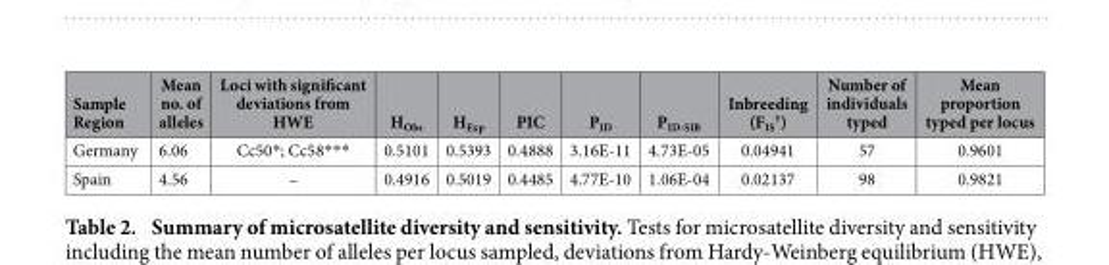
<table><thead><tr><td>Sample Region</td><td>Mean no. of alleles</td><td>Loci with significant deviations from HWE</td><td>H<sub>Obs</sub></td><td>H<sub>Exp</sub></td><td>PIC</td><td>P<sub>ID</sub></td><td>P<sub>ID-SIB</sub></td><td>Inbreeding (F<sub>IS</sub> †)</td><td>Number of individuals typed</td><td>Mean proportion typed per locus</td></tr></thead><tbody><tr><td>Germany</td><td>6.06</td><td>Cc50* ; Cc58* * *</td><td>0.5101</td><td>0.5393</td><td>0.4888</td><td>3.16E-11</td><td>4.73E-05</td><td>0.04941</td><td>57</td><td>0.9601</td></tr><tr><td>Spain</td><td>4.56</td><td>–</td><td>0.4916</td><td>0.5019</td><td>0.4485</td><td>4.77E-10</td><td>1.06E-04</td><td>0.02137</td><td>98</td><td>0.9821</td></tr></tbody></table>